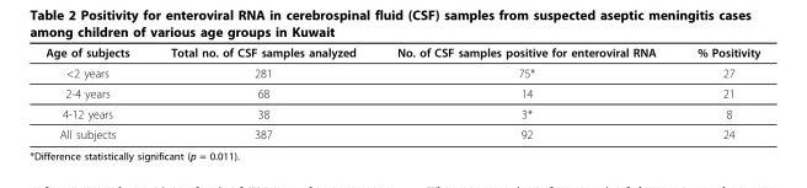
<table><thead><tr><td>Age of subjects</td><td>Total no. of CSF samples analyzed</td><td>No. of CSF samples positive for enteroviral RNA</td><td>% Positivity</td></tr></thead><tbody><tr><td>&lt;2 years</td><td>281</td><td>75*</td><td>27</td></tr><tr><td>2-4 years</td><td>68</td><td>14</td><td>21</td></tr><tr><td>4-12 years</td><td>38</td><td>3*</td><td>8</td></tr><tr><td>All subjects</td><td>387</td><td>92</td><td>24</td></tr></tbody></table>